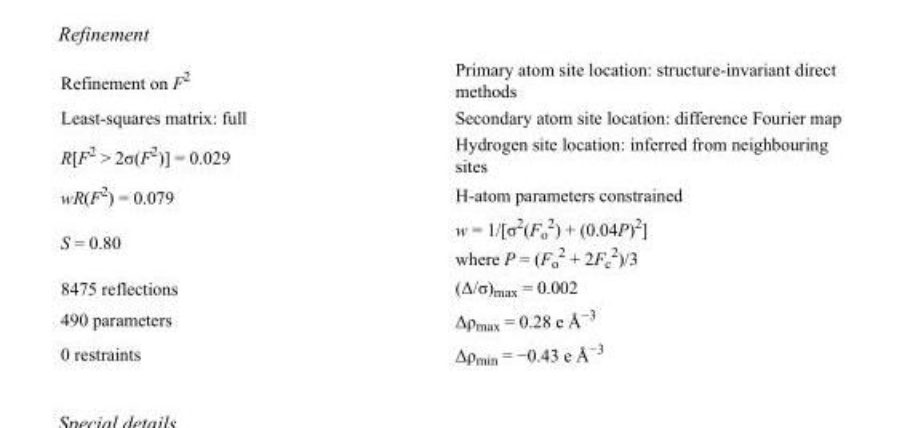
<table><tbody><tr><td>Refinement on F<sup>2</sup></td><td>Primary atom site location: structure-invariant direct methods</td></tr><tr><td>Least-squares matrix: full</td><td>Secondary atom site location: difference Fourier map</td></tr><tr><td>R[F<sup>2</sup> &gt; 2σ(F<sup>2</sup>)] = 0.029</td><td>Hydrogen site location: inferred from neighbouring sites</td></tr><tr><td>wR(F<sup>2</sup>) = 0.079</td><td>H-atom parameters constrained</td></tr><tr><td>S = 0.80</td><td>w = 1/[σ<sup>2</sup>(F<sub>o</sub> <sup>2</sup>) + (0.04P)<sup>2</sup>] where P = (F<sub>o</sub> <sup>2</sup> + 2F<sub>c</sub> <sup>2</sup>)/3</td></tr><tr><td>8475 reflections</td><td>(Δ/σ)<sub>max</sub> = 0.002</td></tr><tr><td>490 parameters</td><td>Δρ<sub>max</sub> = 0.28 e Å<sup>−3</sup></td></tr><tr><td>0 restraints</td><td>Δρ<sub>min</sub> = −0.43 e Å<sup>−3</sup></td></tr></tbody></table>